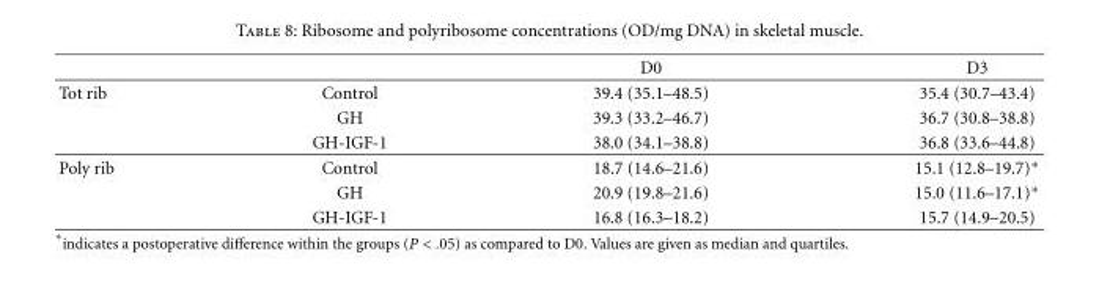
<table><thead><tr><td></td><td></td><td>D0</td><td>D3</td></tr></thead><tbody><tr><td rowspan="3">Tot rib</td><td>Control</td><td>39.4 (35.1–48.5)</td><td>35.4 (30.7–43.4)</td></tr><tr><td>GH</td><td>39.3 (33.2–46.7)</td><td>36.7 (30.8–38.8)</td></tr><tr><td>GH-IGF-1</td><td>38.0 (34.1–38.8)</td><td>36.8 (33.6–44.8)</td></tr><tr><td rowspan="3">Poly rib</td><td>Control</td><td>18.7 (14.6–21.6)</td><td>15.1 (12.8–19.7)∗</td></tr><tr><td>GH</td><td>20.9 (19.8–21.6)</td><td>15.0 (11.6–17.1)∗</td></tr><tr><td>GH-IGF-1</td><td>16.8 (16.3–18.2)</td><td>15.7 (14.9–20.5)</td></tr></tbody></table>